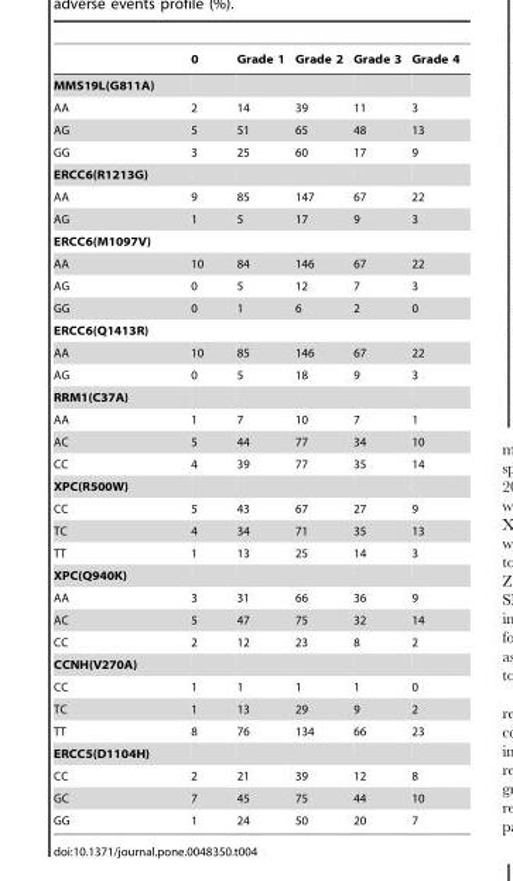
<table><thead><tr><td></td><td>0</td><td>Grade 1</td><td>Grade 2</td><td>Grade 3</td><td>Grade 4</td></tr></thead><tbody><tr><td colspan="6">MMS19L(G811A)</td></tr><tr><td>AA</td><td>2</td><td>14</td><td>39</td><td>11</td><td>3</td></tr><tr><td>AG</td><td>5</td><td>51</td><td>65</td><td>48</td><td>13</td></tr><tr><td>GG</td><td>3</td><td>25</td><td>60</td><td>17</td><td>9</td></tr><tr><td colspan="6">ERCC6(R1213G)</td></tr><tr><td>AA</td><td>9</td><td>85</td><td>147</td><td>67</td><td>22</td></tr><tr><td>AG</td><td>1</td><td>5</td><td>17</td><td>9</td><td>3</td></tr><tr><td colspan="6">ERCC6(M1097V)</td></tr><tr><td>AA</td><td>10</td><td>84</td><td>146</td><td>67</td><td>22</td></tr><tr><td>AG</td><td>0</td><td>5</td><td>12</td><td>7</td><td>3</td></tr><tr><td>GG</td><td>0</td><td>1</td><td>6</td><td>2</td><td>0</td></tr><tr><td colspan="6">ERCC6(Q1413R)</td></tr><tr><td>AA</td><td>10</td><td>85</td><td>146</td><td>67</td><td>22</td></tr><tr><td>AG</td><td>0</td><td>5</td><td>18</td><td>9</td><td>3</td></tr><tr><td colspan="6">RRM1(C37A)</td></tr><tr><td>AA</td><td>1</td><td>7</td><td>10</td><td>7</td><td>1</td></tr><tr><td>AC</td><td>5</td><td>44</td><td>77</td><td>34</td><td>10</td></tr><tr><td>CC</td><td>4</td><td>39</td><td>77</td><td>35</td><td>14</td></tr><tr><td colspan="6">XPC(R500W)</td></tr><tr><td>CC</td><td>5</td><td>43</td><td>67</td><td>27</td><td>9</td></tr><tr><td>TC</td><td>4</td><td>34</td><td>71</td><td>35</td><td>13</td></tr><tr><td>TT</td><td>1</td><td>13</td><td>25</td><td>14</td><td>3</td></tr><tr><td colspan="6">XPC(Q940K)</td></tr><tr><td>AA</td><td>3</td><td>31</td><td>66</td><td>36</td><td>9</td></tr><tr><td>AC</td><td>5</td><td>47</td><td>75</td><td>32</td><td>14</td></tr><tr><td>CC</td><td>2</td><td>12</td><td>23</td><td>8</td><td>2</td></tr><tr><td colspan="6">CCNH(V270A)</td></tr><tr><td>CC</td><td>1</td><td>1</td><td>1</td><td>1</td><td>0</td></tr><tr><td>TC</td><td>1</td><td>13</td><td>29</td><td>9</td><td>2</td></tr><tr><td>TT</td><td>8</td><td>76</td><td>134</td><td>66</td><td>23</td></tr><tr><td colspan="6">ERCC5(D1104H)</td></tr><tr><td>CC</td><td>2</td><td>21</td><td>39</td><td>12</td><td>8</td></tr><tr><td>GC</td><td>7</td><td>45</td><td>75</td><td>44</td><td>10</td></tr><tr><td>GG</td><td>1</td><td>24</td><td>50</td><td>20</td><td>7</td></tr></tbody></table>